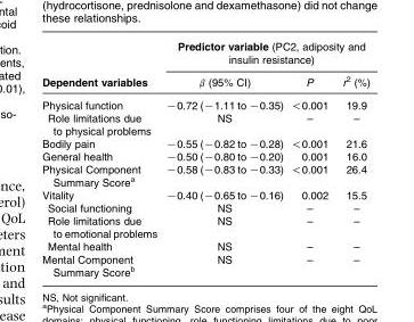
<table><thead><tr><td rowspan="2">Dependent variables</td><td colspan="3">Predictor variable (PC2, adiposity and insulin resistance)</td></tr><tr><td>β (95% CI)</td><td>P</td><td>r<sup>2</sup> (%)</td></tr></thead><tbody><tr><td>Physical function</td><td>−0.72 (−1.11 to −0.35)</td><td>&lt;0.001</td><td>19.9</td></tr><tr><td>Role limitations due to physical problems</td><td>NS</td><td>–</td><td>–</td></tr><tr><td>Bodily pain</td><td>−0.55 (−0.82 to −0.28)</td><td>&lt;0.001</td><td>21.6</td></tr><tr><td>General health</td><td>−0.50 (−0.80 to −0.20)</td><td>0.001</td><td>16.0</td></tr><tr><td>Physical Component Summary Score<sup>a</sup></td><td>−0.58 (−0.83 to −0.33)</td><td>&lt;0.001</td><td>26.4</td></tr><tr><td>Vitality</td><td>−0.40 (−0.65 to −0.16)</td><td>0.002</td><td>15.5</td></tr><tr><td>Social functioning</td><td>NS</td><td>–</td><td>–</td></tr><tr><td>Role limitations due to emotional problems</td><td>NS</td><td>–</td><td>–</td></tr><tr><td>Mental health</td><td>NS</td><td>–</td><td>–</td></tr><tr><td>Mental Component Summary Score<sup>b</sup></td><td>NS</td><td>–</td><td>–</td></tr></tbody></table>